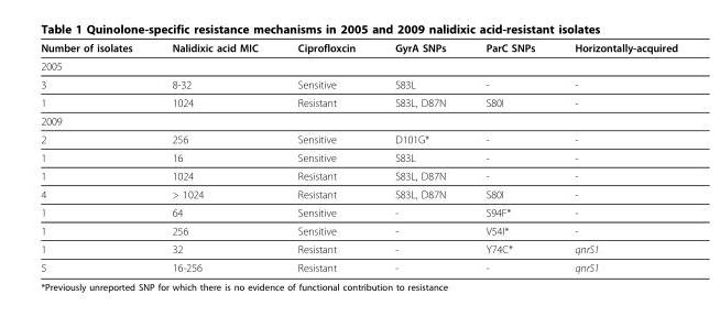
<table><thead><tr><td>Number of isolates</td><td>Nalidixic acid MIC</td><td>Ciprofloxcin</td><td>GyrA SNPs</td><td>ParC SNPs</td><td>Horizontally-acquired</td></tr></thead><tbody><tr><td colspan="6">2005</td></tr><tr><td>3</td><td>8-32</td><td>Sensitive</td><td>S83L</td><td>-</td><td>-</td></tr><tr><td>1</td><td>1024</td><td>Resistant</td><td>S83L, D87N</td><td>S80I</td><td>-</td></tr><tr><td colspan="6">2009</td></tr><tr><td>2</td><td>256</td><td>Sensitive</td><td>D101G*</td><td>-</td><td>-</td></tr><tr><td>1</td><td>16</td><td>Sensitive</td><td>S83L</td><td>-</td><td>-</td></tr><tr><td>1</td><td>1024</td><td>Resistant</td><td>S83L, D87N</td><td>-</td><td>-</td></tr><tr><td>4</td><td>&gt; 1024</td><td>Resistant</td><td>S83L, D87N</td><td>S80I</td><td>-</td></tr><tr><td>1</td><td>64</td><td>Sensitive</td><td>-</td><td>S94F*</td><td>-</td></tr><tr><td>1</td><td>256</td><td>Sensitive</td><td>-</td><td>V54I*</td><td>-</td></tr><tr><td>1</td><td>32</td><td>Resistant</td><td>-</td><td>Y74C*</td><td>qnrS1</td></tr><tr><td>5</td><td>16-256</td><td>Resistant</td><td>-</td><td>-</td><td>qnrS1</td></tr></tbody></table>